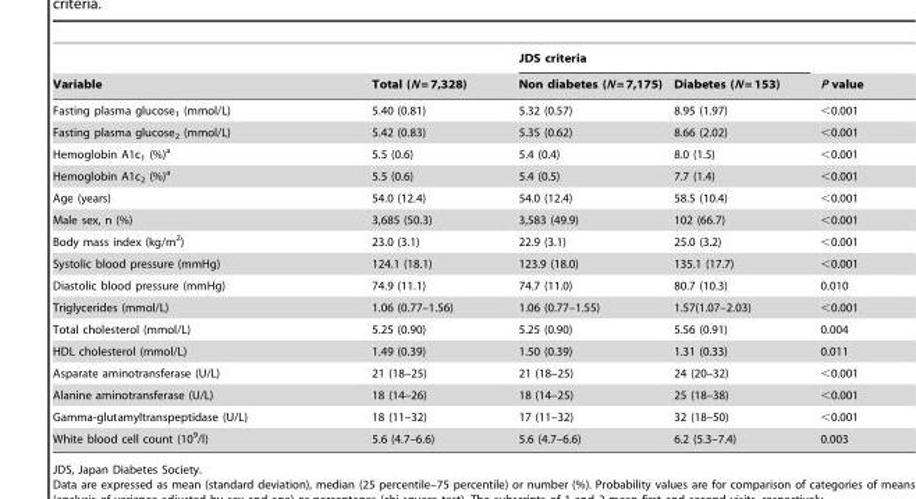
<table><thead><tr><td rowspan="2">Variable</td><td rowspan="2">Total (N = 7,328)</td><td colspan="2">JDS criteria</td><td rowspan="2">P value</td></tr><tr><td>Non diabetes (N = 7,175)</td><td>Diabetes (N = 153)</td></tr></thead><tbody><tr><td>Fasting plasma glucose<sub>1</sub> (mmol/L)</td><td>5.40 (0.81)</td><td>5.32 (0.57)</td><td>8.95 (1.97)</td><td>&lt;0.001</td></tr><tr><td>Fasting plasma glucose<sub>2</sub> (mmol/L)</td><td>5.42 (0.83)</td><td>5.35 (0.62)</td><td>8.66 (2.02)</td><td>&lt;0.001</td></tr><tr><td>Hemoglobin A1c<sub>1</sub> (%)<sup>a</sup></td><td>5.5 (0.6)</td><td>5.4 (0.4)</td><td>8.0 (1.5)</td><td>&lt;0.001</td></tr><tr><td>Hemoglobin A1c<sub>2</sub> (%)<sup>a</sup></td><td>5.5 (0.6)</td><td>5.4 (0.5)</td><td>7.7 (1.4)</td><td>&lt;0.001</td></tr><tr><td>Age (years)</td><td>54.0 (12.4)</td><td>54.0 (12.4)</td><td>58.5 (10.4)</td><td>&lt;0.001</td></tr><tr><td>Male sex, n (%)</td><td>3,685 (50.3)</td><td>3,583 (49.9)</td><td>102 (66.7)</td><td>&lt;0.001</td></tr><tr><td>Body mass index (kg/m<sup>2</sup>)</td><td>23.0 (3.1)</td><td>22.9 (3.1)</td><td>25.0 (3.2)</td><td>&lt;0.001</td></tr><tr><td>Systolic blood pressure (mmHg)</td><td>124.1 (18.1)</td><td>123.9 (18.0)</td><td>135.1 (17.7)</td><td>&lt;0.001</td></tr><tr><td>Diastolic blood pressure (mmHg)</td><td>74.9 (11.1)</td><td>74.7 (11.0)</td><td>80.7 (10.3)</td><td>0.010</td></tr><tr><td>Triglycerides (mmol/L)</td><td>1.06 (0.77–1.56)</td><td>1.06 (0.77–1.55)</td><td>1.57(1.07–2.03)</td><td>&lt;0.001</td></tr><tr><td>Total cholesterol (mmol/L)</td><td>5.25 (0.90)</td><td>5.25 (0.90)</td><td>5.56 (0.91)</td><td>0.004</td></tr><tr><td>HDL cholesterol (mmol/L)</td><td>1.49 (0.39)</td><td>1.50 (0.39)</td><td>1.31 (0.33)</td><td>0.011</td></tr><tr><td>Asparate aminotransferase (U/L)</td><td>21 (18–25)</td><td>21 (18–25)</td><td>24 (20–32)</td><td>&lt;0.001</td></tr><tr><td>Alanine aminotransferase (U/L)</td><td>18 (14–26)</td><td>18 (14–25)</td><td>25 (18–38)</td><td>&lt;0.001</td></tr><tr><td>Gamma-glutamyltranspeptidase (U/L)</td><td>18 (11–32)</td><td>17 (11–32)</td><td>32 (18–50)</td><td>&lt;0.001</td></tr><tr><td>White blood cell count (10<sup>9</sup>/l)</td><td>5.6 (4.7–6.6)</td><td>5.6 (4.7–6.6)</td><td>6.2 (5.3–7.4)</td><td>0.003</td></tr></tbody></table>